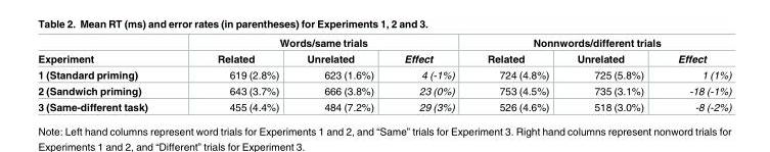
<table><thead><tr><td rowspan="2">Experiment</td><td colspan="3">Words/same trials</td><td colspan="3">Nonnwords/different trials</td></tr><tr><td>Related</td><td>Unrelated</td><td>Effect</td><td>Related</td><td>Unrelated</td><td>Effect</td></tr></thead><tbody><tr><td>1 (Standard priming)</td><td>619 (2.8%)</td><td>623 (1.6%)</td><td>4 (-1%)</td><td>724 (4.8%)</td><td>725 (5.8%)</td><td>1 (1%)</td></tr><tr><td>2 (Sandwich priming)</td><td>643 (3.7%)</td><td>666 (3.8%)</td><td>23 (0%)</td><td>753 (4.5%)</td><td>735 (3.1%)</td><td>-18 (-1%)</td></tr><tr><td>3 (Same-different task)</td><td>455 (4.4%)</td><td>484 (7.2%)</td><td>29 (3%)</td><td>526 (4.6%)</td><td>518 (3.0%)</td><td>-8 (-2%)</td></tr></tbody></table>